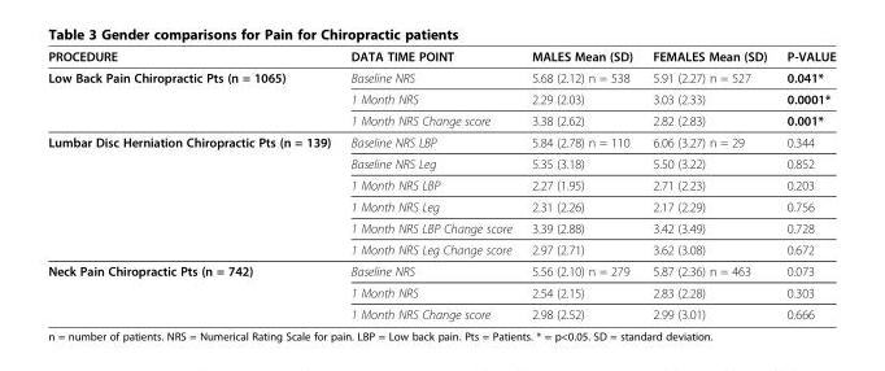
<table><thead><tr><td>PROCEDURE</td><td>DATA TIME POINT</td><td>MALES Mean (SD)</td><td>FEMALES Mean (SD)</td><td>P-VALUE</td></tr></thead><tbody><tr><td rowspan="3">Low Back Pain Chiropractic Pts (n = 1065)</td><td>Baseline NRS</td><td>5.68 (2.12) n = 538</td><td>5.91 (2.27) n = 527</td><td>0.041*</td></tr><tr><td>1 Month NRS</td><td>2.29 (2.03)</td><td>3.03 (2.33)</td><td>0.0001*</td></tr><tr><td>1 Month NRS Change score</td><td>3.38 (2.62)</td><td>2.82 (2.83)</td><td>0.001*</td></tr><tr><td rowspan="6">Lumbar Disc Herniation Chiropractic Pts (n = 139)</td><td>Baseline NRS LBP</td><td>5.84 (2.78) n = 110</td><td>6.06 (3.27) n = 29</td><td>0.344</td></tr><tr><td>Baseline NRS Leg</td><td>5.35 (3.18)</td><td>5.50 (3.22)</td><td>0.852</td></tr><tr><td>1 Month NRS LBP</td><td>2.27 (1.95)</td><td>2.71 (2.23)</td><td>0.203</td></tr><tr><td>1 Month NRS Leg</td><td>2.31 (2.26)</td><td>2.17 (2.29)</td><td>0.756</td></tr><tr><td>1 Month NRS LBP Change score</td><td>3.39 (2.88)</td><td>3.42 (3.49)</td><td>0.728</td></tr><tr><td>1 Month NRS Leg Change score</td><td>2.97 (2.71)</td><td>3.62 (3.08)</td><td>0.672</td></tr><tr><td rowspan="3">Neck Pain Chiropractic Pts (n = 742)</td><td>Baseline NRS</td><td>5.56 (2.10) n = 279</td><td>5.87 (2.36) n = 463</td><td>0.073</td></tr><tr><td>1 Month NRS</td><td>2.54 (2.15)</td><td>2.83 (2.28)</td><td>0.303</td></tr><tr><td>1 Month NRS Change score</td><td>2.98 (2.52)</td><td>2.99 (3.01)</td><td>0.666</td></tr></tbody></table>